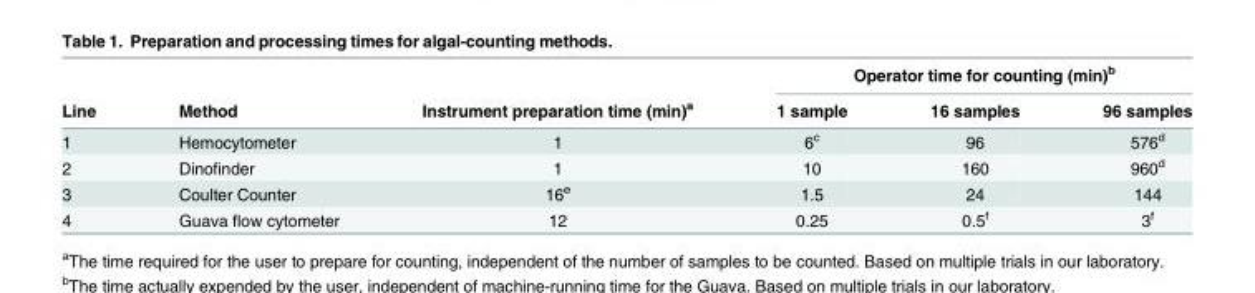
<table><thead><tr><td rowspan="2">Line</td><td rowspan="2">Method</td><td rowspan="2">Instrument preparation time (min)<sup>a</sup></td><td colspan="3">Operator time for counting (min)<sup>b</sup></td></tr><tr><td>1 sample</td><td>16 samples</td><td>96 samples</td></tr></thead><tbody><tr><td>1</td><td>Hemocytometer</td><td>1</td><td>6<sup>c</sup></td><td>96</td><td>576<sup>d</sup></td></tr><tr><td>2</td><td>Dinofinder</td><td>1</td><td>10</td><td>160</td><td>960<sup>d</sup></td></tr><tr><td>3</td><td>Coulter Counter</td><td>16<sup>e</sup></td><td>1.5</td><td>24</td><td>144</td></tr><tr><td>4</td><td>Guava flow cytometer</td><td>12</td><td>0.25</td><td>0.5<sup>f</sup></td><td>3<sup>f</sup></td></tr></tbody></table>